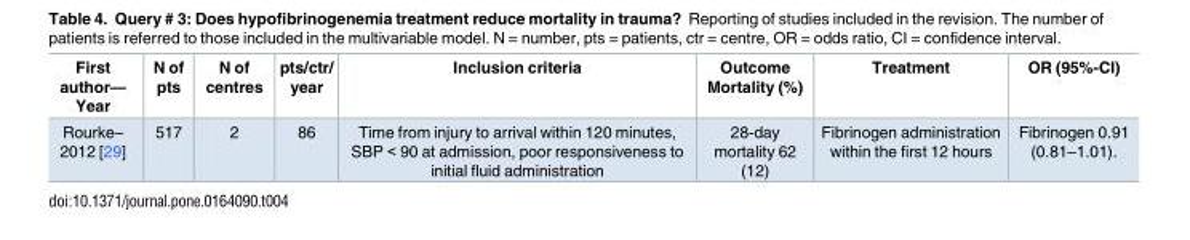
<table><thead><tr><td>First author— Year</td><td>N of pts</td><td>N of centres</td><td>pts/ctr/ year</td><td>Inclusion criteria</td><td>Outcome Mortality (%)</td><td>Treatment</td><td>OR (95%-CI)</td></tr></thead><tbody><tr><td>Rourke– 2012 [29]</td><td>517</td><td>2</td><td>86</td><td>Time from injury to arrival within 120 minutes, SBP &lt; 90 at admission, poor responsiveness to initial fluid administration</td><td>28-day mortality 62 (12)</td><td>Fibrinogen administration within the first 12 hours</td><td>Fibrinogen 0.91 (0.81–1.01).</td></tr></tbody></table>